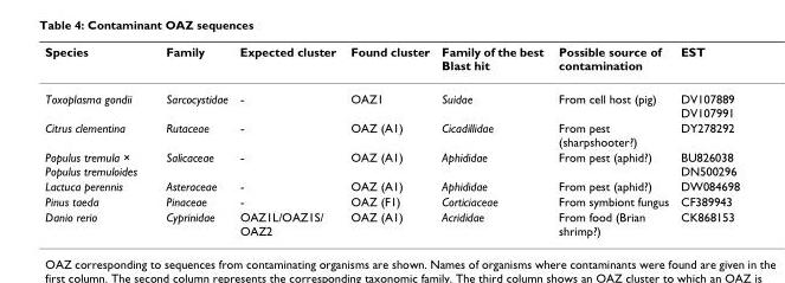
<table><thead><tr><td>Species</td><td>Family</td><td>Expected cluster</td><td>Found cluster</td><td>Family of the best Blast hit</td><td>Possible source of contamination</td><td>EST</td></tr></thead><tbody><tr><td>Toxoplasma gondii</td><td>Sarcocystidae</td><td>-</td><td>OAZ1</td><td>Suidae</td><td>From cell host (pig)</td><td>DV107889 DV107991</td></tr><tr><td>Citrus clementina</td><td>Rutaceae</td><td>-</td><td>OAZ (A1)</td><td>Cicadillidae</td><td>From pest (sharpshooter?)</td><td>DY278292</td></tr><tr><td>Populus tremula × Populus tremuloides</td><td>Salicaceae</td><td>-</td><td>OAZ (A1)</td><td>Aphididae</td><td>From pest (aphid?)</td><td>BU826038 DN500296</td></tr><tr><td>Lactuca perennis</td><td>Asteraceae</td><td>-</td><td>OAZ (A1)</td><td>Aphididae</td><td>From pest (aphid?)</td><td>DW084698</td></tr><tr><td>Pinus taeda</td><td>Pinaceae</td><td>-</td><td>OAZ (F1)</td><td>Corticiaceae</td><td>From symbiont fungus</td><td>CF389943</td></tr><tr><td>Danio rerio</td><td>Cyprinidae</td><td>OAZ1L/OAZ1S/ OAZ2</td><td>OAZ (A1)</td><td>Acrididae</td><td>From food (Brian shrimp?)</td><td>CK868153</td></tr></tbody></table>